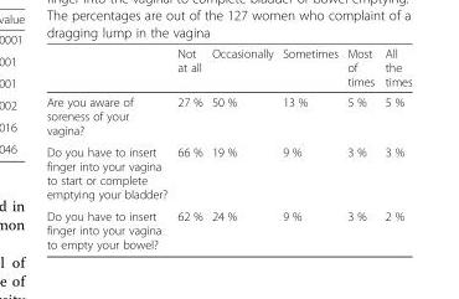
<table><thead><tr><td></td><td>Not at all</td><td>Occasionally</td><td>Sometimes</td><td>Most of times</td><td>All the times</td></tr></thead><tbody><tr><td>Are you aware of soreness of your vagina?</td><td>27 %</td><td>50 %</td><td>13 %</td><td>5 %</td><td>5 %</td></tr><tr><td>Do you have to insert finger into your vagina to start or complete emptying your bladder?</td><td>66 %</td><td>19 %</td><td>9 %</td><td>3 %</td><td>3 %</td></tr><tr><td>Do you have to insert finger into your vagina to empty your bowel?</td><td>62 %</td><td>24 %</td><td>9 %</td><td>3 %</td><td>2 %</td></tr></tbody></table>